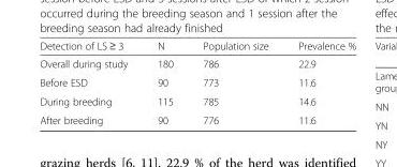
<table><thead><tr><td>Detection of LS ≥ 3</td><td>N</td><td>Population size</td><td>Prevalence %</td></tr></thead><tbody><tr><td>Overall during study</td><td>180</td><td>786</td><td>22.9</td></tr><tr><td>Before ESD</td><td>90</td><td>773</td><td>11.6</td></tr><tr><td>During breeding</td><td>115</td><td>785</td><td>14.6</td></tr><tr><td>After breeding</td><td>90</td><td>776</td><td>11.6</td></tr></tbody></table>